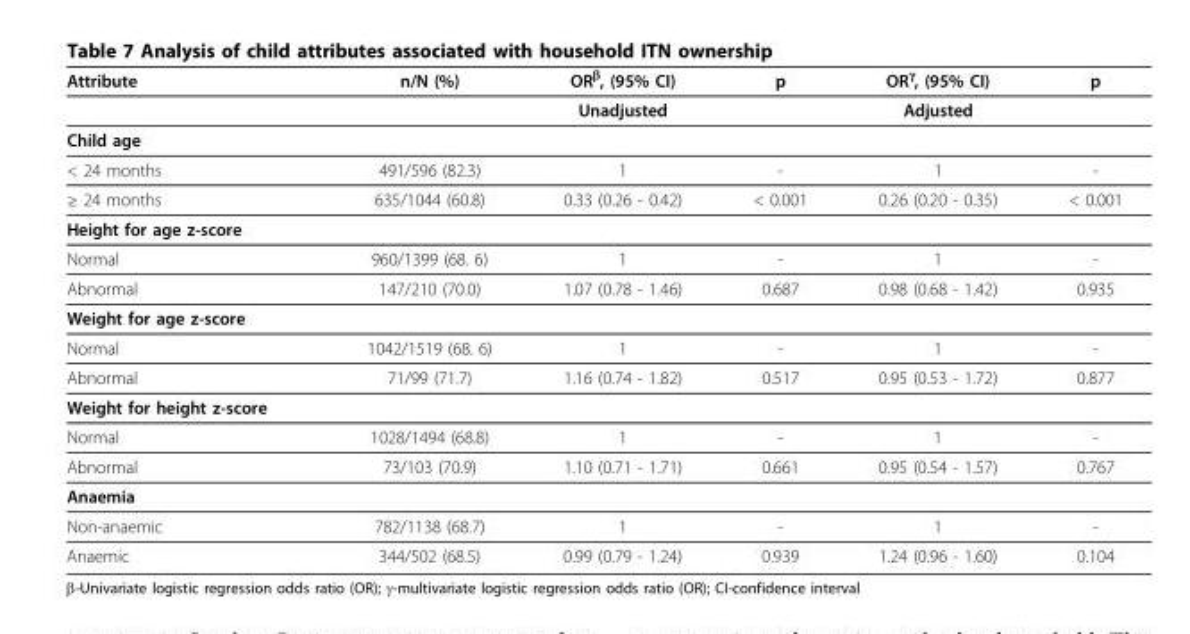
<table><thead><tr><td>Attribute</td><td>n/N (%)</td><td>ORβ, (95% CI)</td><td>p</td><td>ORγ, (95% CI)</td><td>p</td></tr></thead><tbody><tr><td></td><td></td><td>Unadjusted</td><td></td><td>Adjusted</td><td></td></tr><tr><td colspan="6">Child age</td></tr><tr><td>&lt; 24 months</td><td>491/596 (82.3)</td><td>1</td><td>-</td><td>1</td><td>-</td></tr><tr><td>≥ 24 months</td><td>635/1044 (60.8)</td><td>0.33 (0.26 - 0.42)</td><td>&lt; 0.001</td><td>0.26 (0.20 - 0.35)</td><td>&lt; 0.001</td></tr><tr><td colspan="6">Height for age z-score</td></tr><tr><td>Normal</td><td>960/1399 (68. 6)</td><td>1</td><td>-</td><td>1</td><td>-</td></tr><tr><td>Abnormal</td><td>147/210 (70.0)</td><td>1.07 (0.78 - 1.46)</td><td>0.687</td><td>0.98 (0.68 - 1.42)</td><td>0.935</td></tr><tr><td colspan="6">Weight for age z-score</td></tr><tr><td>Normal</td><td>1042/1519 (68. 6)</td><td>1</td><td>-</td><td>1</td><td>-</td></tr><tr><td>Abnormal</td><td>71/99 (71.7)</td><td>1.16 (0.74 - 1.82)</td><td>0.517</td><td>0.95 (0.53 - 1.72)</td><td>0.877</td></tr><tr><td colspan="6">Weight for height z-score</td></tr><tr><td>Normal</td><td>1028/1494 (68.8)</td><td>1</td><td>-</td><td>1</td><td>-</td></tr><tr><td>Abnormal</td><td>73/103 (70.9)</td><td>1.10 (0.71 - 1.71)</td><td>0.661</td><td>0.95 (0.54 - 1.57)</td><td>0.767</td></tr><tr><td colspan="6">Anaemia</td></tr><tr><td>Non-anaemic</td><td>782/1138 (68.7)</td><td>1</td><td>-</td><td>1</td><td>-</td></tr><tr><td>Anaemic</td><td>344/502 (68.5)</td><td>0.99 (0.79 - 1.24)</td><td>0.939</td><td>1.24 (0.96 - 1.60)</td><td>0.104</td></tr></tbody></table>